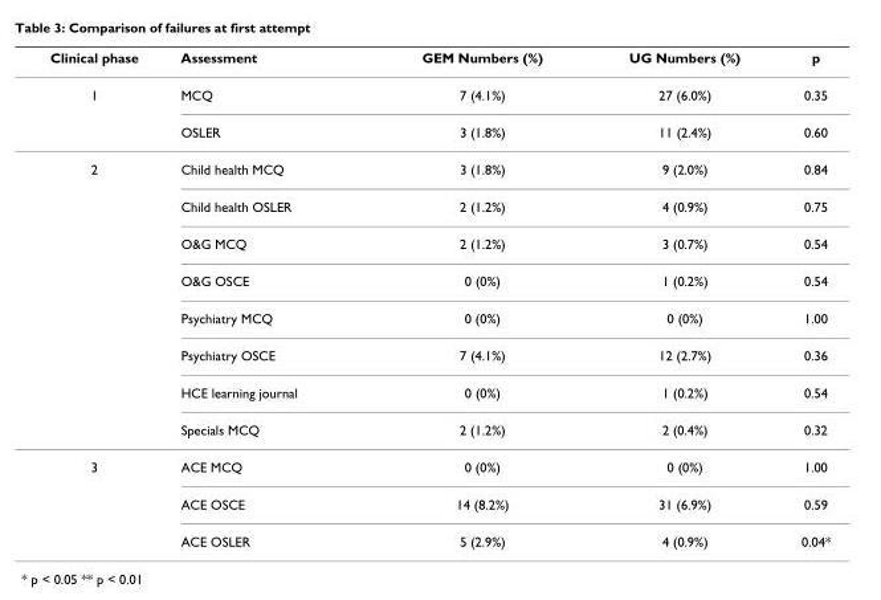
<table><thead><tr><td>Clinical phase</td><td>Assessment</td><td>GEM Numbers (%)</td><td>UG Numbers (%)</td><td>p</td></tr></thead><tbody><tr><td rowspan="2">1</td><td>MCQ</td><td>7 (4.1%)</td><td>27 (6.0%)</td><td>0.35</td></tr><tr><td>OSLER</td><td>3 (1.8%)</td><td>11 (2.4%)</td><td>0.60</td></tr><tr><td rowspan="8">2</td><td>Child health MCQ</td><td>3 (1.8%)</td><td>9 (2.0%)</td><td>0.84</td></tr><tr><td>Child health OSLER</td><td>2 (1.2%)</td><td>4 (0.9%)</td><td>0.75</td></tr><tr><td>O&amp;G MCQ</td><td>2 (1.2%)</td><td>3 (0.7%)</td><td>0.54</td></tr><tr><td>O&amp;G OSCE</td><td>0 (0%)</td><td>1 (0.2%)</td><td>0.54</td></tr><tr><td>Psychiatry MCQ</td><td>0 (0%)</td><td>0 (0%)</td><td>1.00</td></tr><tr><td>Psychiatry OSCE</td><td>7 (4.1%)</td><td>12 (2.7%)</td><td>0.36</td></tr><tr><td>HCE learning journal</td><td>0 (0%)</td><td>1 (0.2%)</td><td>0.54</td></tr><tr><td>Specials MCQ</td><td>2 (1.2%)</td><td>2 (0.4%)</td><td>0.32</td></tr><tr><td rowspan="3">3</td><td>ACE MCQ</td><td>0 (0%)</td><td>0 (0%)</td><td>1.00</td></tr><tr><td>ACE OSCE</td><td>14 (8.2%)</td><td>31 (6.9%)</td><td>0.59</td></tr><tr><td>ACE OSLER</td><td>5 (2.9%)</td><td>4 (0.9%)</td><td>0.04*</td></tr></tbody></table>